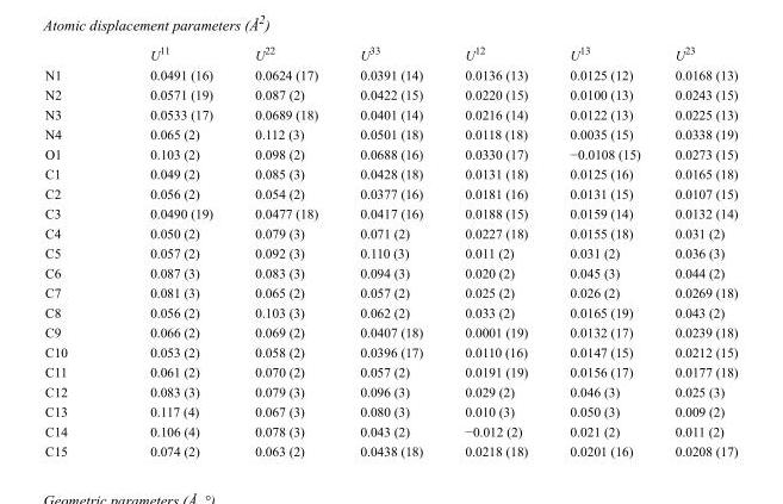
<table><thead><tr><td></td><td>U<sup>11</sup></td><td>U<sup>22</sup></td><td>U<sup>33</sup></td><td>U<sup>12</sup></td><td>U<sup>13</sup></td><td>U<sup>23</sup></td></tr></thead><tbody><tr><td>N1</td><td>0.0491 (16)</td><td>0.0624 (17)</td><td>0.0391 (14)</td><td>0.0136 (13)</td><td>0.0125 (12)</td><td>0.0168 (13)</td></tr><tr><td>N2</td><td>0.0571 (19)</td><td>0.087 (2)</td><td>0.0422 (15)</td><td>0.0220 (15)</td><td>0.0100 (13)</td><td>0.0243 (15)</td></tr><tr><td>N3</td><td>0.0533 (17)</td><td>0.0689 (18)</td><td>0.0401 (14)</td><td>0.0216 (14)</td><td>0.0122 (13)</td><td>0.0225 (13)</td></tr><tr><td>N4</td><td>0.065 (2)</td><td>0.112 (3)</td><td>0.0501 (18)</td><td>0.0118 (18)</td><td>0.0035 (15)</td><td>0.0338 (19)</td></tr><tr><td>O1</td><td>0.103 (2)</td><td>0.098 (2)</td><td>0.0688 (16)</td><td>0.0330 (17)</td><td>−0.0108 (15)</td><td>0.0273 (15)</td></tr><tr><td>C1</td><td>0.049 (2)</td><td>0.085 (3)</td><td>0.0428 (18)</td><td>0.0131 (18)</td><td>0.0125 (16)</td><td>0.0165 (18)</td></tr><tr><td>C2</td><td>0.056 (2)</td><td>0.054 (2)</td><td>0.0377 (16)</td><td>0.0181 (16)</td><td>0.0131 (15)</td><td>0.0107 (15)</td></tr><tr><td>C3</td><td>0.0490 (19)</td><td>0.0477 (18)</td><td>0.0417 (16)</td><td>0.0188 (15)</td><td>0.0159 (14)</td><td>0.0132 (14)</td></tr><tr><td>C4</td><td>0.050 (2)</td><td>0.079 (3)</td><td>0.071 (2)</td><td>0.0227 (18)</td><td>0.0155 (18)</td><td>0.031 (2)</td></tr><tr><td>C5</td><td>0.057 (2)</td><td>0.092 (3)</td><td>0.110 (3)</td><td>0.011 (2)</td><td>0.031 (2)</td><td>0.036 (3)</td></tr><tr><td>C6</td><td>0.087 (3)</td><td>0.083 (3)</td><td>0.094 (3)</td><td>0.020 (2)</td><td>0.045 (3)</td><td>0.044 (2)</td></tr><tr><td>C7</td><td>0.081 (3)</td><td>0.065 (2)</td><td>0.057 (2)</td><td>0.025 (2)</td><td>0.026 (2)</td><td>0.0269 (18)</td></tr><tr><td>C8</td><td>0.056 (2)</td><td>0.103 (3)</td><td>0.062 (2)</td><td>0.033 (2)</td><td>0.0165 (19)</td><td>0.043 (2)</td></tr><tr><td>C9</td><td>0.066 (2)</td><td>0.069 (2)</td><td>0.0407 (18)</td><td>0.0001 (19)</td><td>0.0132 (17)</td><td>0.0239 (18)</td></tr><tr><td>C10</td><td>0.053 (2)</td><td>0.058 (2)</td><td>0.0396 (17)</td><td>0.0110 (16)</td><td>0.0147 (15)</td><td>0.0212 (15)</td></tr><tr><td>C11</td><td>0.061 (2)</td><td>0.070 (2)</td><td>0.057 (2)</td><td>0.0191 (19)</td><td>0.0156 (17)</td><td>0.0177 (18)</td></tr><tr><td>C12</td><td>0.083 (3)</td><td>0.079 (3)</td><td>0.096 (3)</td><td>0.029 (2)</td><td>0.046 (3)</td><td>0.025 (3)</td></tr><tr><td>C13</td><td>0.117 (4)</td><td>0.067 (3)</td><td>0.080 (3)</td><td>0.010 (3)</td><td>0.050 (3)</td><td>0.009 (2)</td></tr><tr><td>C14</td><td>0.106 (4)</td><td>0.078 (3)</td><td>0.043 (2)</td><td>−0.012 (2)</td><td>0.021 (2)</td><td>0.011 (2)</td></tr><tr><td>C15</td><td>0.074 (2)</td><td>0.063 (2)</td><td>0.0438 (18)</td><td>0.0218 (18)</td><td>0.0201 (16)</td><td>0.0208 (17)</td></tr></tbody></table>